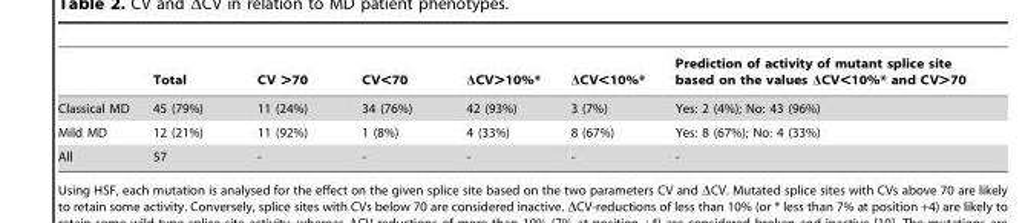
<table><thead><tr><td></td><td>Total</td><td>CV &gt;70</td><td>CV&lt;70</td><td>ΔCV&gt;10%*</td><td>ΔCV&lt;10%*</td><td>Prediction of activity of mutant splice site based on the values ΔCV&lt;10%* and CV&gt;70</td></tr></thead><tbody><tr><td>Classical MD</td><td>45 (79%)</td><td>11 (24%)</td><td>34 (76%)</td><td>42 (93%)</td><td>3 (7%)</td><td>Yes: 2 (4%); No: 43 (96%)</td></tr><tr><td>Mild MD</td><td>12 (21%)</td><td>11 (92%)</td><td>1 (8%)</td><td>4 (33%)</td><td>8 (67%)</td><td>Yes: 8 (67%); No: 4 (33%)</td></tr><tr><td>All</td><td>57</td><td>-</td><td>-</td><td>-</td><td>-</td><td>-</td></tr></tbody></table>